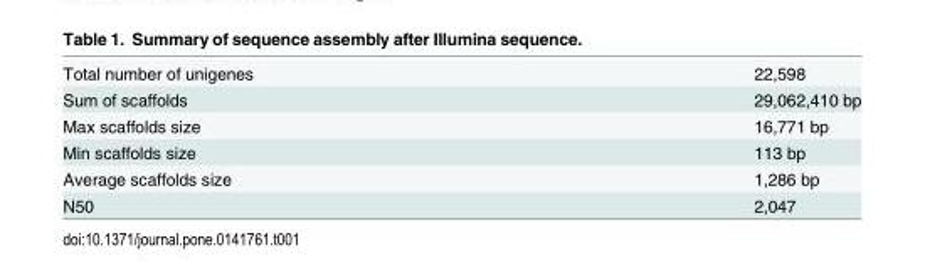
<table><tbody><tr><td>Total number of unigenes</td><td>22,598</td></tr><tr><td>Sum of scaffolds</td><td>29,062,410 bp</td></tr><tr><td>Max scaffolds size</td><td>16,771 bp</td></tr><tr><td>Min scaffolds size</td><td>113 bp</td></tr><tr><td>Average scaffolds size</td><td>1,286 bp</td></tr><tr><td>N50</td><td>2,047</td></tr></tbody></table>